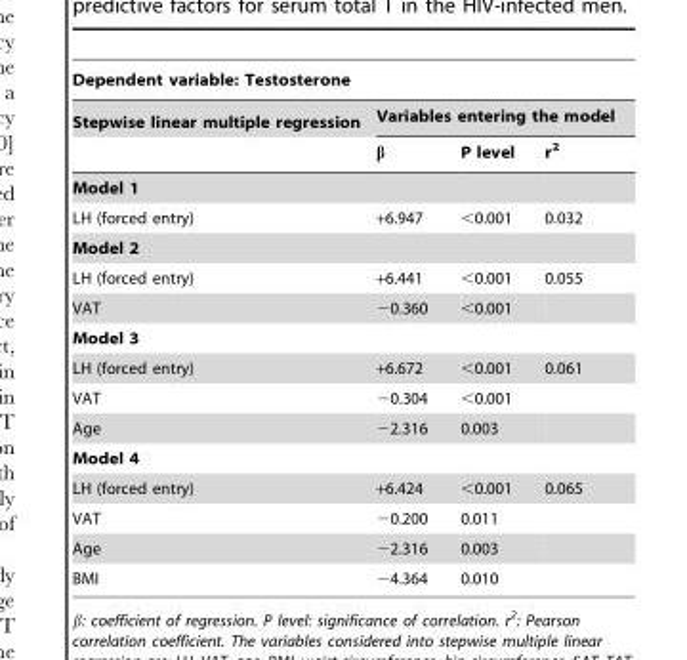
<table><thead><tr><td colspan="4">Dependent variable: Testosterone</td></tr><tr><td rowspan="2">Stepwise linear multiple regression</td><td colspan="3">Variables entering the model</td></tr><tr><td>β</td><td>P level</td><td>r<sup>2</sup></td></tr></thead><tbody><tr><td colspan="4">Model 1</td></tr><tr><td>LH (forced entry)</td><td>+6.947</td><td>&lt;0.001</td><td>0.032</td></tr><tr><td colspan="4">Model 2</td></tr><tr><td>LH (forced entry)</td><td>+6.441</td><td>&lt;0.001</td><td>0.055</td></tr><tr><td>VAT</td><td>−0.360</td><td>&lt;0.001</td><td></td></tr><tr><td colspan="4">Model 3</td></tr><tr><td>LH (forced entry)</td><td>+6.672</td><td>&lt;0.001</td><td>0.061</td></tr><tr><td>VAT</td><td>−0.304</td><td>&lt;0.001</td><td></td></tr><tr><td>Age</td><td>−2.316</td><td>0.003</td><td></td></tr><tr><td colspan="4">Model 4</td></tr><tr><td>LH (forced entry)</td><td>+6.424</td><td>&lt;0.001</td><td>0.065</td></tr><tr><td>VAT</td><td>−0.200</td><td>0.011</td><td></td></tr><tr><td>Age</td><td>−2.316</td><td>0.003</td><td></td></tr><tr><td>BMI</td><td>−4.364</td><td>0.010</td><td></td></tr></tbody></table>